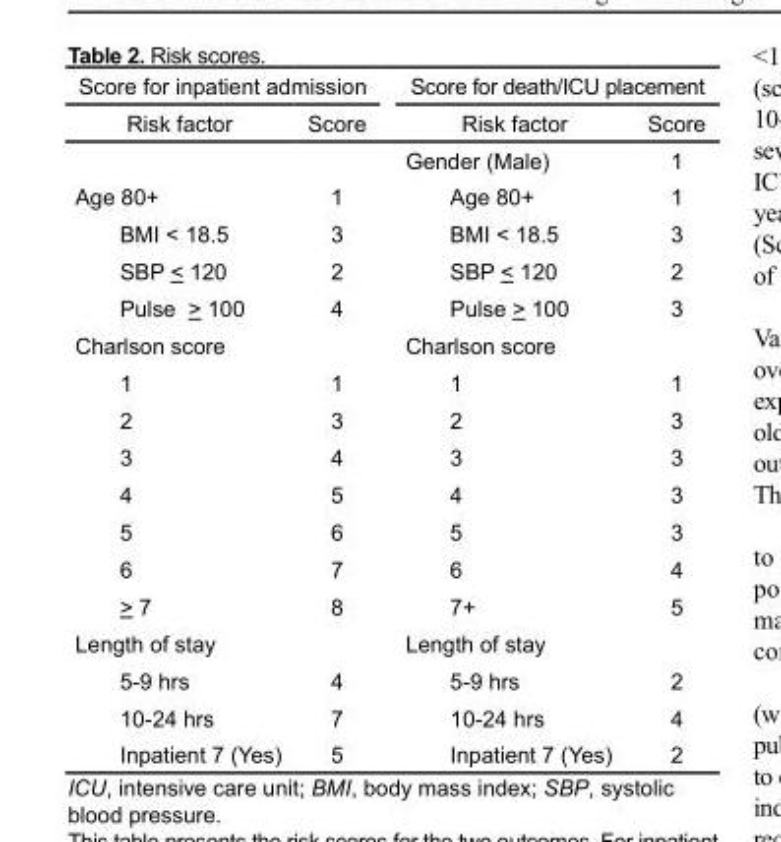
<table><thead><tr><td colspan="2">Score for inpatient admission</td><td colspan="2">Score for death/ICU placement</td></tr><tr><td>Risk factor</td><td>Score</td><td>Risk factor</td><td>Score</td></tr></thead><tbody><tr><td></td><td></td><td>Gender (Male)</td><td>1</td></tr><tr><td>Age 80+</td><td>1</td><td>Age 80+</td><td>1</td></tr><tr><td>BMI &lt; 18.5</td><td>3</td><td>BMI &lt; 18.5</td><td>3</td></tr><tr><td>SBP &lt; 120</td><td>2</td><td>SBP &lt; 120</td><td>2</td></tr><tr><td>Pulse &gt; 100</td><td>4</td><td>Pulse &gt; 100</td><td>3</td></tr><tr><td>Charlson score</td><td></td><td>Charlson score</td><td></td></tr><tr><td>1</td><td>1</td><td>1</td><td>1</td></tr><tr><td>2</td><td>3</td><td>2</td><td>3</td></tr><tr><td>3</td><td>4</td><td>3</td><td>3</td></tr><tr><td>4</td><td>5</td><td>4</td><td>3</td></tr><tr><td>5</td><td>6</td><td>5</td><td>3</td></tr><tr><td>6</td><td>7</td><td>6</td><td>4</td></tr><tr><td>&gt; 7</td><td>8</td><td>7+</td><td>5</td></tr><tr><td>Length of stay</td><td></td><td>Length of stay</td><td></td></tr><tr><td>5-9 hrs</td><td>4</td><td>5-9 hrs</td><td>2</td></tr><tr><td>10-24 hrs</td><td>7</td><td>10-24 hrs</td><td>4</td></tr><tr><td>Inpatient 7 (Yes)</td><td>5</td><td>Inpatient 7 (Yes)</td><td>2</td></tr></tbody></table>